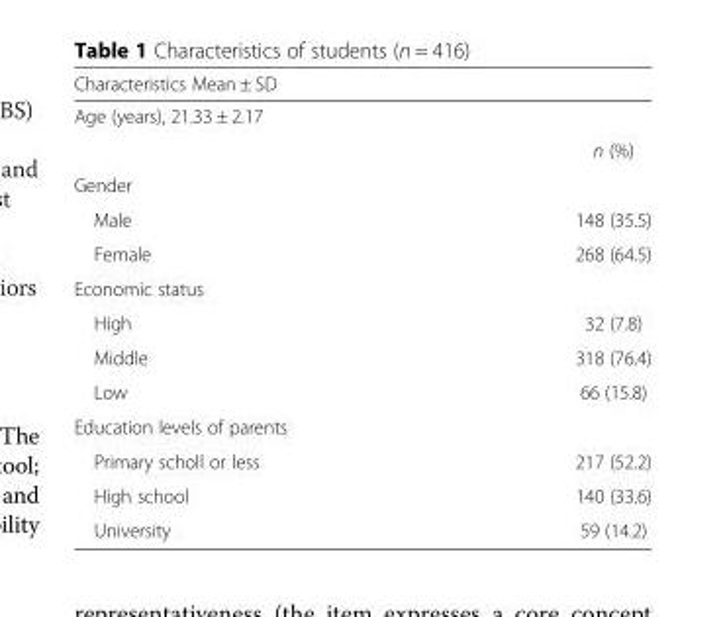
<table><thead><tr><td>Characteristics Mean ± SD</td><td></td></tr></thead><tbody><tr><td colspan="2">Age (years), 21.33 ± 2.17</td></tr><tr><td></td><td>n (%)</td></tr><tr><td colspan="2">Gender</td></tr><tr><td>Male</td><td>148 (35.5)</td></tr><tr><td>Female</td><td>268 (64.5)</td></tr><tr><td colspan="2">Economic status</td></tr><tr><td>High</td><td>32 (7.8)</td></tr><tr><td>Middle</td><td>318 (76.4)</td></tr><tr><td>Low</td><td>66 (15.8)</td></tr><tr><td colspan="2">Education levels of parents</td></tr><tr><td>Primary scholl or less</td><td>217 (52.2)</td></tr><tr><td>High school</td><td>140 (33.6)</td></tr><tr><td>University</td><td>59 (14.2)</td></tr></tbody></table>